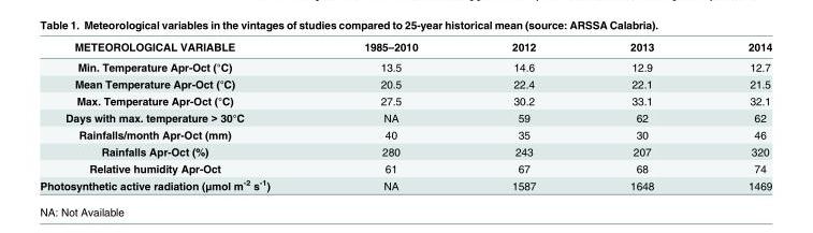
<table><thead><tr><td>METEOROLOGICAL VARIABLE</td><td>1985–2010</td><td>2012</td><td>2013</td><td>2014</td></tr></thead><tbody><tr><td>Min. Temperature Apr-Oct (°C)</td><td>13.5</td><td>14.6</td><td>12.9</td><td>12.7</td></tr><tr><td>Mean Temperature Apr-Oct (°C)</td><td>20.5</td><td>22.4</td><td>22.1</td><td>21.5</td></tr><tr><td>Max. Temperature Apr-Oct (°C)</td><td>27.5</td><td>30.2</td><td>33.1</td><td>32.1</td></tr><tr><td>Days with max. temperature &gt; 30°C</td><td>NA</td><td>59</td><td>62</td><td>62</td></tr><tr><td>Rainfalls/month Apr-Oct (mm)</td><td>40</td><td>35</td><td>30</td><td>46</td></tr><tr><td>Rainfalls Apr-Oct (%)</td><td>280</td><td>243</td><td>207</td><td>320</td></tr><tr><td>Relative humidity Apr-Oct</td><td>61</td><td>67</td><td>68</td><td>74</td></tr><tr><td>Photosynthetic active radiation (μmol m<sup>-2</sup> s<sup>-1</sup>)</td><td>NA</td><td>1587</td><td>1648</td><td>1469</td></tr></tbody></table>